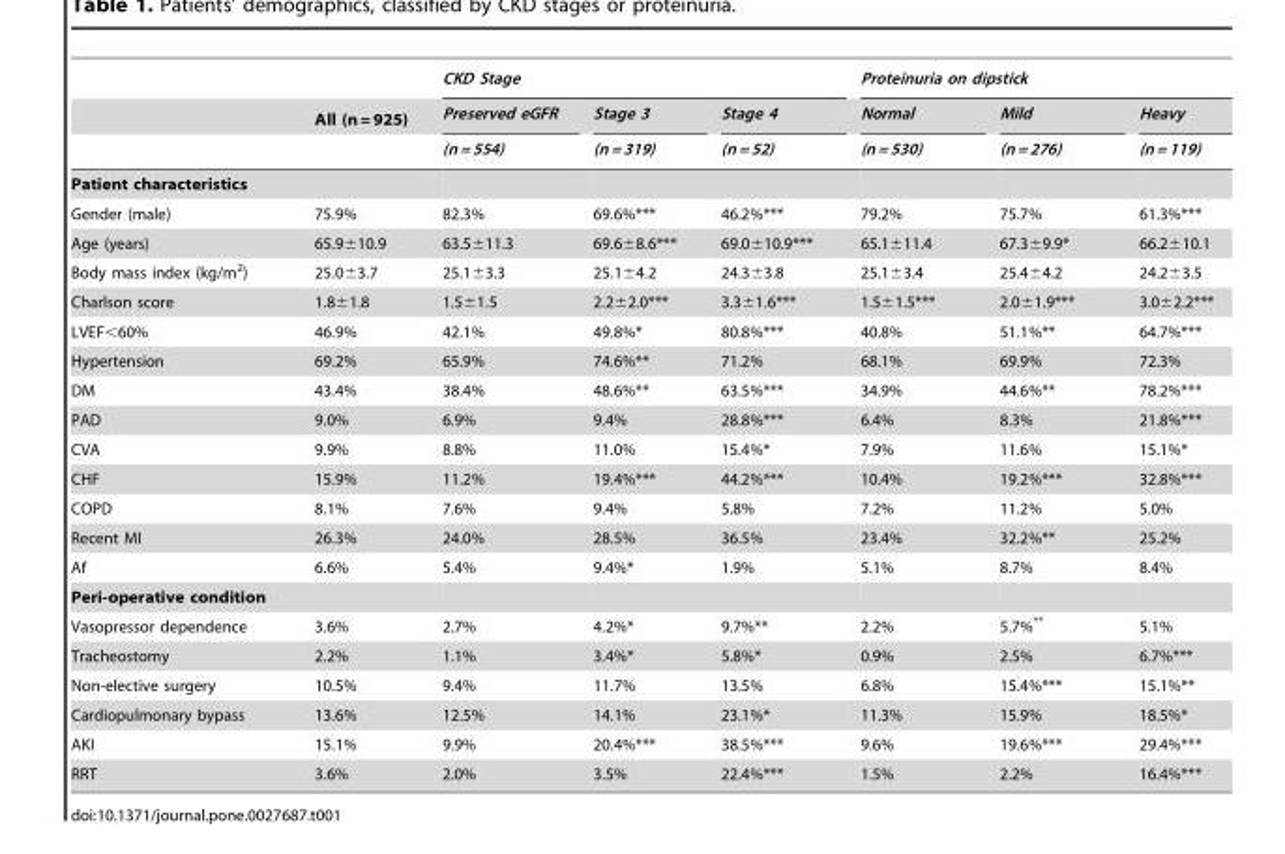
<table><thead><tr><td rowspan="3"></td><td rowspan="3">All (n = 925)</td><td colspan="3">CKD Stage</td><td colspan="3">Proteinuria on dipstick</td></tr><tr><td rowspan="2">Preserved eGFR (n = 554)</td><td rowspan="2">Stage 3 (n = 319)</td><td rowspan="2">Stage 4 (n = 52)</td><td rowspan="2">Normal (n = 530)</td><td rowspan="2">Mild (n = 276)</td><td rowspan="2">Heavy (n = 119)</td></tr><tr></tr></thead><tbody><tr><td colspan="8">Patient characteristics</td></tr><tr><td>Gender (male)</td><td>75.9%</td><td>82.3%</td><td>69.6%***</td><td>46.2%***</td><td>79.2%</td><td>75.7%</td><td>61.3%***</td></tr><tr><td>Age (years)</td><td>65.9±10.9</td><td>63.5±11.3</td><td>69.6±8.6***</td><td>69.0±10.9***</td><td>65.1±11.4</td><td>67.3±9.9*</td><td>66.2±10.1</td></tr><tr><td>Body mass index (kg/m<sup>2</sup>)</td><td>25.0±3.7</td><td>25.1±3.3</td><td>25.1±4.2</td><td>24.3±3.8</td><td>25.1±3.4</td><td>25.4±4.2</td><td>24.2±3.5</td></tr><tr><td>Charlson score</td><td>1.8±1.8</td><td>1.5±1.5</td><td>2.2±2.0***</td><td>3.3±1.6***</td><td>1.5±1.5***</td><td>2.0±1.9***</td><td>3.0±2.2***</td></tr><tr><td>LVEF&lt;60%</td><td>46.9%</td><td>42.1%</td><td>49.8%*</td><td>80.8%***</td><td>40.8%</td><td>51.1%**</td><td>64.7%***</td></tr><tr><td>Hypertension</td><td>69.2%</td><td>65.9%</td><td>74.6%**</td><td>71.2%</td><td>68.1%</td><td>69.9%</td><td>72.3%</td></tr><tr><td>DM</td><td>43.4%</td><td>38.4%</td><td>48.6%**</td><td>63.5%***</td><td>34.9%</td><td>44.6%**</td><td>78.2%***</td></tr><tr><td>PAD</td><td>9.0%</td><td>6.9%</td><td>9.4%</td><td>28.8%***</td><td>6.4%</td><td>8.3%</td><td>21.8%***</td></tr><tr><td>CVA</td><td>9.9%</td><td>8.8%</td><td>11.0%</td><td>15.4%*</td><td>7.9%</td><td>11.6%</td><td>15.1%*</td></tr><tr><td>CHF</td><td>15.9%</td><td>11.2%</td><td>19.4%***</td><td>44.2%***</td><td>10.4%</td><td>19.2%***</td><td>32.8%***</td></tr><tr><td>COPD</td><td>8.1%</td><td>7.6%</td><td>9.4%</td><td>5.8%</td><td>7.2%</td><td>11.2%</td><td>5.0%</td></tr><tr><td>Recent MI</td><td>26.3%</td><td>24.0%</td><td>28.5%</td><td>36.5%</td><td>23.4%</td><td>32.2%**</td><td>25.2%</td></tr><tr><td>Af</td><td>6.6%</td><td>5.4%</td><td>9.4%*</td><td>1.9%</td><td>5.1%</td><td>8.7%</td><td>8.4%</td></tr><tr><td colspan="8">Peri-operative condition</td></tr><tr><td>Vasopressor dependence</td><td>3.6%</td><td>2.7%</td><td>4.2%*</td><td>9.7%**</td><td>2.2%</td><td>5.7%**</td><td>5.1%</td></tr><tr><td>Tracheostomy</td><td>2.2%</td><td>1.1%</td><td>3.4%*</td><td>5.8%*</td><td>0.9%</td><td>2.5%</td><td>6.7%***</td></tr><tr><td>Non-elective surgery</td><td>10.5%</td><td>9.4%</td><td>11.7%</td><td>13.5%</td><td>6.8%</td><td>15.4%***</td><td>15.1%**</td></tr><tr><td>Cardiopulmonary bypass</td><td>13.6%</td><td>12.5%</td><td>14.1%</td><td>23.1%*</td><td>11.3%</td><td>15.9%</td><td>18.5%*</td></tr><tr><td>AKI</td><td>15.1%</td><td>9.9%</td><td>20.4%***</td><td>38.5%***</td><td>9.6%</td><td>19.6%***</td><td>29.4%***</td></tr><tr><td>RRT</td><td>3.6%</td><td>2.0%</td><td>3.5%</td><td>22.4%***</td><td>1.5%</td><td>2.2%</td><td>16.4%***</td></tr></tbody></table>